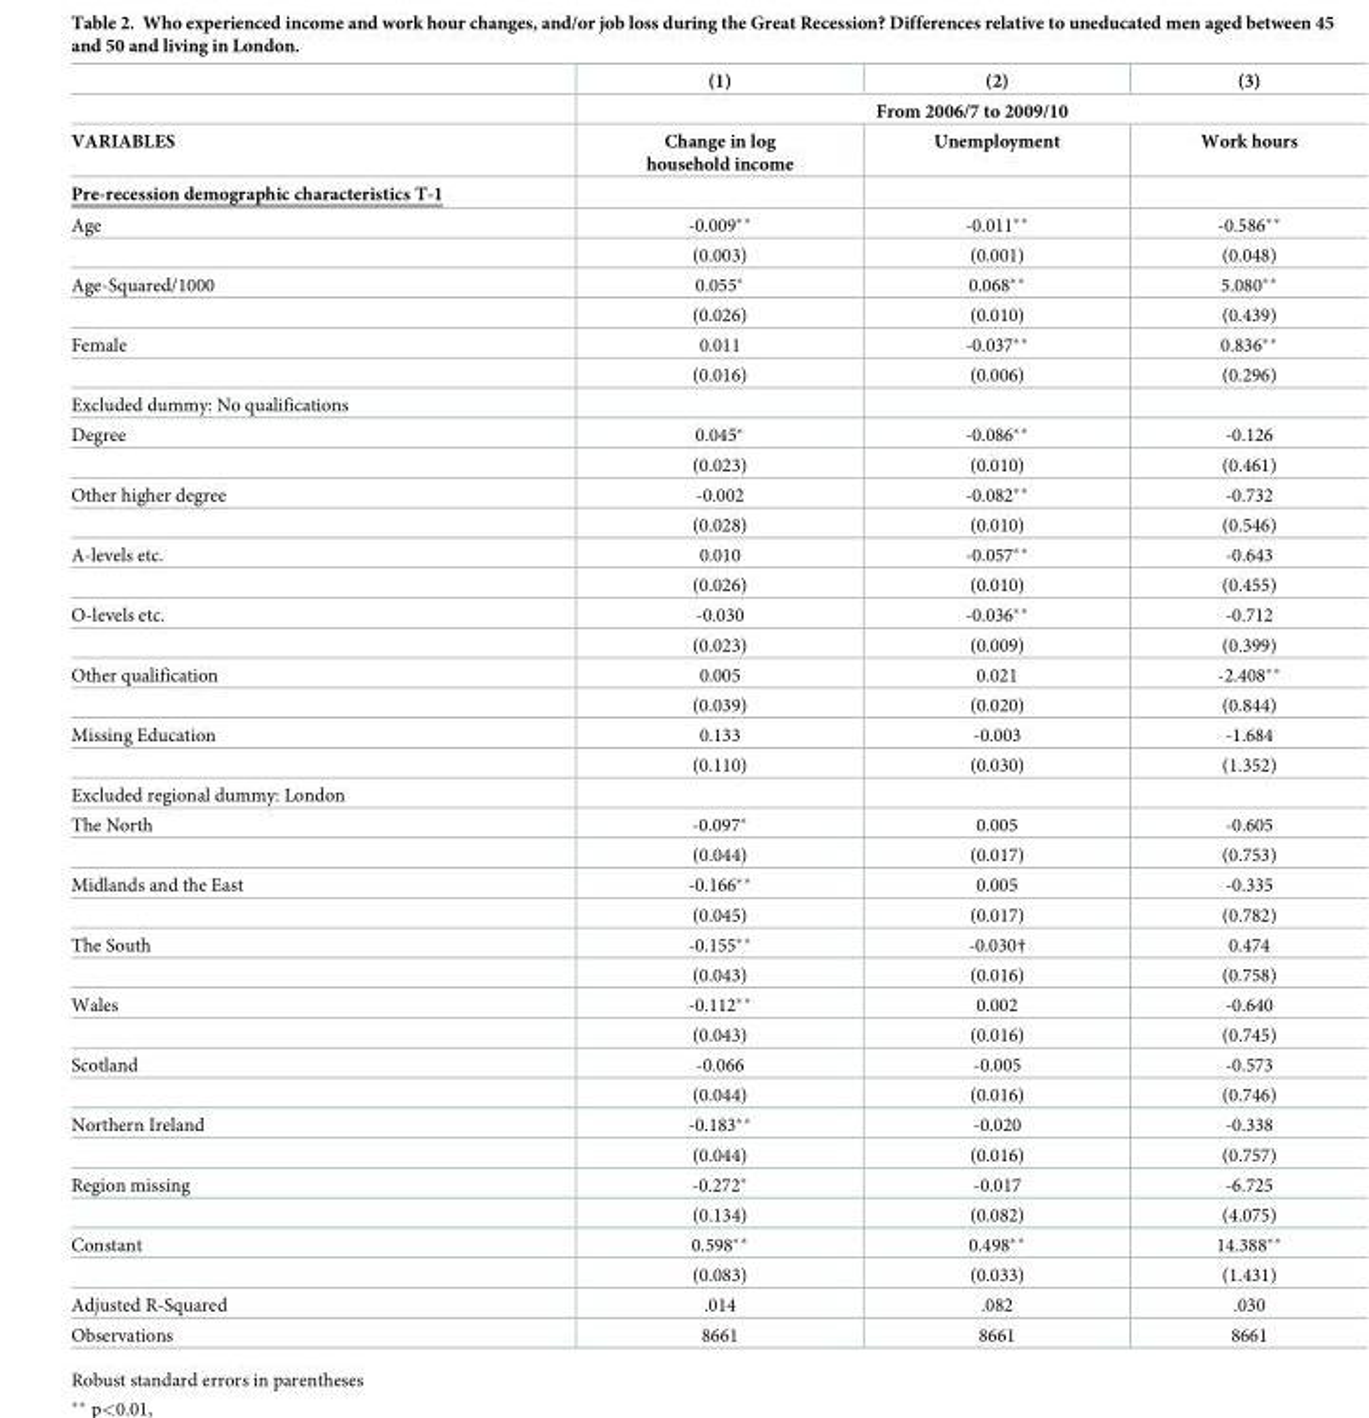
<table><thead><tr><td rowspan="3">VARIABLES</td><td>(1)</td><td>(2)</td><td>(3)</td></tr><tr><td colspan="3">From 2006/7 to 2009/10</td></tr><tr><td>Change in log household income</td><td>Unemployment</td><td>Work hours</td></tr></thead><tbody><tr><td colspan="4">Pre-recession demographic characteristics T-1</td></tr><tr><td rowspan="2">Age</td><td>-0.009**</td><td>-0.011**</td><td>-0.586**</td></tr><tr><td>(0.003)</td><td>(0.001)</td><td>(0.048)</td></tr><tr><td rowspan="2">Age-Squared/1000</td><td>0.055*</td><td>0.068**</td><td>5.080**</td></tr><tr><td>(0.026)</td><td>(0.010)</td><td>(0.439)</td></tr><tr><td rowspan="2">Female</td><td>0.011</td><td>-0.037**</td><td>0.836**</td></tr><tr><td>(0.016)</td><td>(0.006)</td><td>(0.296)</td></tr><tr><td colspan="4">Excluded dummy: No qualifications</td></tr><tr><td rowspan="2">Degree</td><td>0.045*</td><td>-0.086**</td><td>-0.126</td></tr><tr><td>(0.023)</td><td>(0.010)</td><td>(0.461)</td></tr><tr><td rowspan="2">Other higher degree</td><td>-0.002</td><td>-0.082**</td><td>-0.732</td></tr><tr><td>(0.028)</td><td>(0.010)</td><td>(0.546)</td></tr><tr><td rowspan="2">A-levels etc.</td><td>0.010</td><td>-0.057**</td><td>-0.643</td></tr><tr><td>(0.026)</td><td>(0.010)</td><td>(0.455)</td></tr><tr><td rowspan="2">O-levels etc.</td><td>-0.030</td><td>-0.036**</td><td>-0.712</td></tr><tr><td>(0.023)</td><td>(0.009)</td><td>(0.399)</td></tr><tr><td rowspan="2">Other qualification</td><td>0.005</td><td>0.021</td><td>-2.408**</td></tr><tr><td>(0.039)</td><td>(0.020)</td><td>(0.844)</td></tr><tr><td rowspan="2">Missing Education</td><td>0.133</td><td>-0.003</td><td>-1.684</td></tr><tr><td>(0.110)</td><td>(0.030)</td><td>(1.352)</td></tr><tr><td colspan="4">Excluded regional dummy: London</td></tr><tr><td rowspan="2">The North</td><td>-0.097*</td><td>0.005</td><td>-0.605</td></tr><tr><td>(0.044)</td><td>(0.017)</td><td>(0.753)</td></tr><tr><td rowspan="2">Midlands and the East</td><td>-0.166**</td><td>0.005</td><td>-0.335</td></tr><tr><td>(0.045)</td><td>(0.017)</td><td>(0.782)</td></tr><tr><td rowspan="2">The South</td><td>-0.155**</td><td>-0.030†</td><td>0.474</td></tr><tr><td>(0.043)</td><td>(0.016)</td><td>(0.758)</td></tr><tr><td rowspan="2">Wales</td><td>-0.112**</td><td>0.002</td><td>-0.640</td></tr><tr><td>(0.043)</td><td>(0.016)</td><td>(0.745)</td></tr><tr><td rowspan="2">Scotland</td><td>-0.066</td><td>-0.005</td><td>-0.573</td></tr><tr><td>(0.044)</td><td>(0.016)</td><td>(0.746)</td></tr><tr><td rowspan="2">Northern Ireland</td><td>-0.183**</td><td>-0.020</td><td>-0.338</td></tr><tr><td>(0.044)</td><td>(0.016)</td><td>(0.757)</td></tr><tr><td rowspan="2">Region missing</td><td>-0.272*</td><td>-0.017</td><td>-6.725</td></tr><tr><td>(0.134)</td><td>(0.082)</td><td>(4.075)</td></tr><tr><td rowspan="2">Constant</td><td>0.598**</td><td>0.498**</td><td>14.388**</td></tr><tr><td>(0.083)</td><td>(0.033)</td><td>(1.431)</td></tr><tr><td>Adjusted R-Squared</td><td>.014</td><td>.082</td><td>.030</td></tr><tr><td>Observations</td><td>8661</td><td>8661</td><td>8661</td></tr></tbody></table>